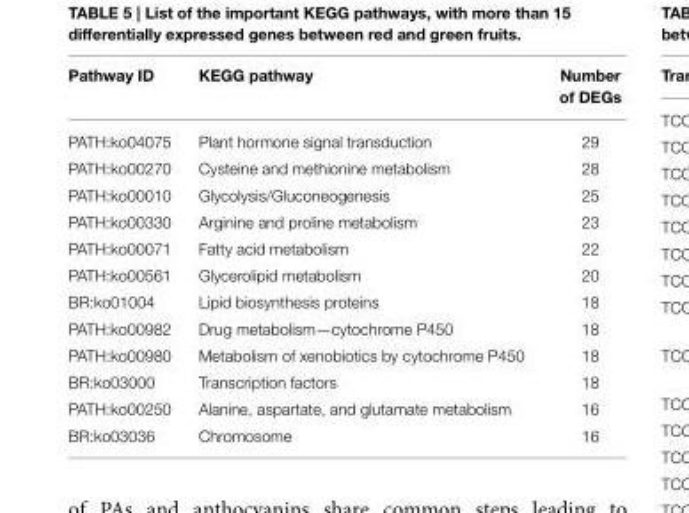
<table><thead><tr><td>Pathway ID</td><td>KEGG pathway</td><td>Number of DEGs</td></tr></thead><tbody><tr><td>PATH:ko04075</td><td>Plant hormone signal transduction</td><td>29</td></tr><tr><td>PATH:ko00270</td><td>Cysteine and methionine metabolism</td><td>28</td></tr><tr><td>PATH:ko00010</td><td>Glycolysis/Gluconeogenesis</td><td>25</td></tr><tr><td>PATH:ko00330</td><td>Arginine and proline metabolism</td><td>23</td></tr><tr><td>PATH:ko00071</td><td>Fatty acid metabolism</td><td>22</td></tr><tr><td>PATH:ko00561</td><td>Glycerolipid metabolism</td><td>20</td></tr><tr><td>BR:ko01004</td><td>Lipid biosynthesis proteins</td><td>18</td></tr><tr><td>PATH:ko00982</td><td>Drug metabolism—cytochrome P450</td><td>18</td></tr><tr><td>PATH:ko00980</td><td>Metabolism of xenobiotics by cytochrome P450</td><td>18</td></tr><tr><td>BR:ko03000</td><td>Transcription factors</td><td>18</td></tr><tr><td>PATH:ko00250</td><td>Alanine, aspartate, and glutamate metabolism</td><td>16</td></tr><tr><td>BR:ko03036</td><td>Chromosome</td><td>16</td></tr></tbody></table>